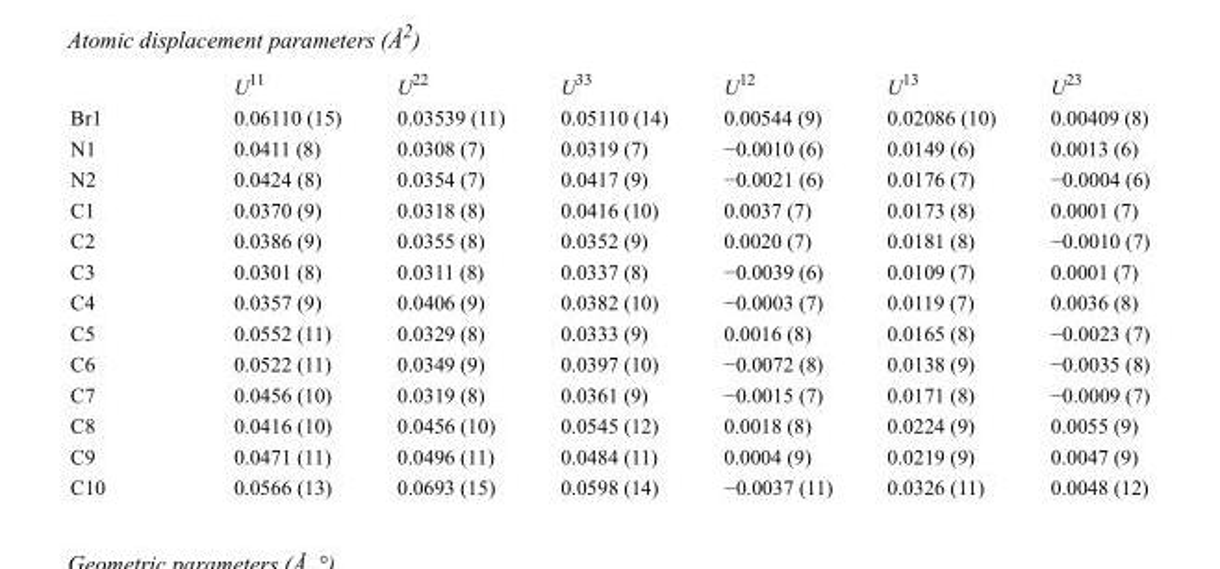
<table><thead><tr><td></td><td>U<sup>11</sup></td><td>U<sup>22</sup></td><td>U<sup>33</sup></td><td>U<sup>12</sup></td><td>U<sup>13</sup></td><td>U<sup>23</sup></td></tr></thead><tbody><tr><td>Br1</td><td>0.06110 (15)</td><td>0.03539 (11)</td><td>0.05110 (14)</td><td>0.00544 (9)</td><td>0.02086 (10)</td><td>0.00409 (8)</td></tr><tr><td>N1</td><td>0.0411 (8)</td><td>0.0308 (7)</td><td>0.0319 (7)</td><td>−0.0010 (6)</td><td>0.0149 (6)</td><td>0.0013 (6)</td></tr><tr><td>N2</td><td>0.0424 (8)</td><td>0.0354 (7)</td><td>0.0417 (9)</td><td>−0.0021 (6)</td><td>0.0176 (7)</td><td>−0.0004 (6)</td></tr><tr><td>C1</td><td>0.0370 (9)</td><td>0.0318 (8)</td><td>0.0416 (10)</td><td>0.0037 (7)</td><td>0.0173 (8)</td><td>0.0001 (7)</td></tr><tr><td>C2</td><td>0.0386 (9)</td><td>0.0355 (8)</td><td>0.0352 (9)</td><td>0.0020 (7)</td><td>0.0181 (8)</td><td>−0.0010 (7)</td></tr><tr><td>C3</td><td>0.0301 (8)</td><td>0.0311 (8)</td><td>0.0337 (8)</td><td>−0.0039 (6)</td><td>0.0109 (7)</td><td>0.0001 (7)</td></tr><tr><td>C4</td><td>0.0357 (9)</td><td>0.0406 (9)</td><td>0.0382 (10)</td><td>−0.0003 (7)</td><td>0.0119 (7)</td><td>0.0036 (8)</td></tr><tr><td>C5</td><td>0.0552 (11)</td><td>0.0329 (8)</td><td>0.0333 (9)</td><td>0.0016 (8)</td><td>0.0165 (8)</td><td>−0.0023 (7)</td></tr><tr><td>C6</td><td>0.0522 (11)</td><td>0.0349 (9)</td><td>0.0397 (10)</td><td>−0.0072 (8)</td><td>0.0138 (9)</td><td>−0.0035 (8)</td></tr><tr><td>C7</td><td>0.0456 (10)</td><td>0.0319 (8)</td><td>0.0361 (9)</td><td>−0.0015 (7)</td><td>0.0171 (8)</td><td>−0.0009 (7)</td></tr><tr><td>C8</td><td>0.0416 (10)</td><td>0.0456 (10)</td><td>0.0545 (12)</td><td>0.0018 (8)</td><td>0.0224 (9)</td><td>0.0055 (9)</td></tr><tr><td>C9</td><td>0.0471 (11)</td><td>0.0496 (11)</td><td>0.0484 (11)</td><td>0.0004 (9)</td><td>0.0219 (9)</td><td>0.0047 (9)</td></tr><tr><td>C10</td><td>0.0566 (13)</td><td>0.0693 (15)</td><td>0.0598 (14)</td><td>−0.0037 (11)</td><td>0.0326 (11)</td><td>0.0048 (12)</td></tr></tbody></table>